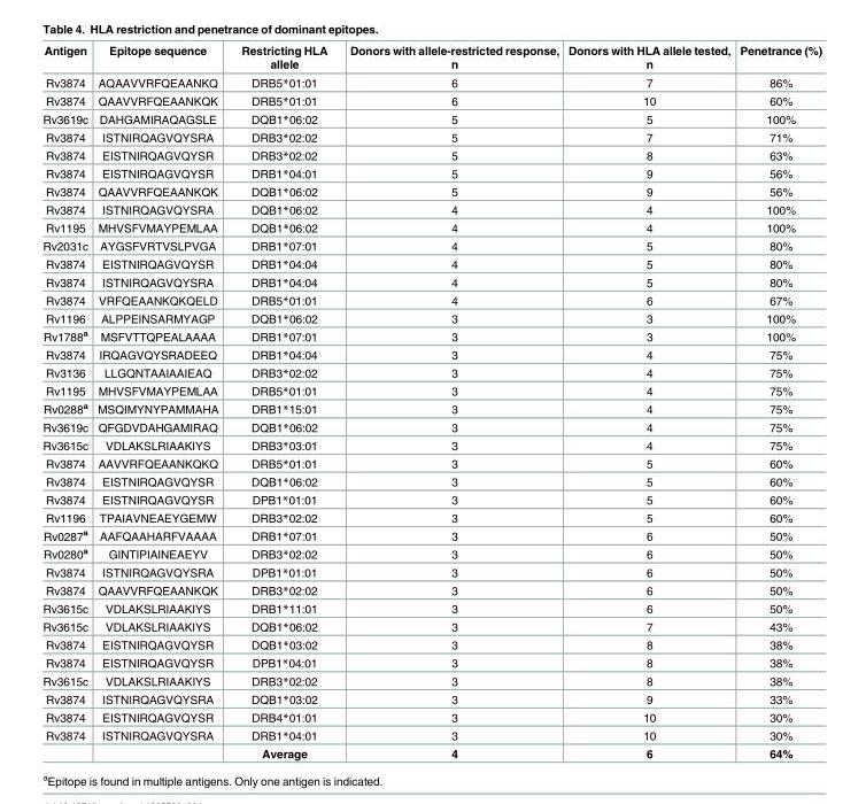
<table><thead><tr><td>Antigen</td><td>Epitope sequence</td><td>Restricting HLA allele</td><td>Donors with allele-restricted response, n</td><td>Donors with HLA allele tested, n</td><td>Penetrance (%)</td></tr></thead><tbody><tr><td>Rv3874</td><td>AQAAVVRFQEAANKQ</td><td>DRB5*01:01</td><td>6</td><td>7</td><td>86%</td></tr><tr><td>Rv3874</td><td>QAAVVRFQEAANKQK</td><td>DRB5*01:01</td><td>6</td><td>10</td><td>60%</td></tr><tr><td>Rv3619c</td><td>DAHGAMIRAQAGSLE</td><td>DQB1*06:02</td><td>5</td><td>5</td><td>100%</td></tr><tr><td>Rv3874</td><td>ISTNIRQAGVQYSRA</td><td>DRB3*02:02</td><td>5</td><td>7</td><td>71%</td></tr><tr><td>Rv3874</td><td>EISTNIRQAGVQYSR</td><td>DRB3*02:02</td><td>5</td><td>8</td><td>63%</td></tr><tr><td>Rv3874</td><td>EISTNIRQAGVQYSR</td><td>DRB1*04:01</td><td>5</td><td>9</td><td>56%</td></tr><tr><td>Rv3874</td><td>QAAVVRFQEAANKQK</td><td>DQB1*06:02</td><td>5</td><td>9</td><td>56%</td></tr><tr><td>Rv3874</td><td>ISTNIRQAGVQYSRA</td><td>DQB1*06:02</td><td>4</td><td>4</td><td>100%</td></tr><tr><td>Rv1195</td><td>MHVSFVMAYPEMLAA</td><td>DQB1*06:02</td><td>4</td><td>4</td><td>100%</td></tr><tr><td>Rv2031c</td><td>AYGSFVRTVSLPVGA</td><td>DRB1*07:01</td><td>4</td><td>5</td><td>80%</td></tr><tr><td>Rv3874</td><td>EISTNIRQAGVQYSR</td><td>DRB1*04:04</td><td>4</td><td>5</td><td>80%</td></tr><tr><td>Rv3874</td><td>ISTNIRQAGVQYSRA</td><td>DRB1*04:04</td><td>4</td><td>5</td><td>80%</td></tr><tr><td>Rv3874</td><td>VRFQEAANKQKQELD</td><td>DRB5*01:01</td><td>4</td><td>6</td><td>67%</td></tr><tr><td>Rv1196</td><td>ALPPEINSARMYAGP</td><td>DQB1*06:02</td><td>3</td><td>3</td><td>100%</td></tr><tr><td>Rv1788<sup>a</sup></td><td>MSFVTTQPEALAAAA</td><td>DRB1*07:01</td><td>3</td><td>3</td><td>100%</td></tr><tr><td>Rv3874</td><td>IRQAGVQYSRADEEQ</td><td>DRB1*04:04</td><td>3</td><td>4</td><td>75%</td></tr><tr><td>Rv3136</td><td>LLGQNTAAIAAIEAQ</td><td>DRB3*02:02</td><td>3</td><td>4</td><td>75%</td></tr><tr><td>Rv1195</td><td>MHVSFVMAYPEMLAA</td><td>DRB5*01:01</td><td>3</td><td>4</td><td>75%</td></tr><tr><td>Rv0288<sup>a</sup></td><td>MSQIMYNYPAMMAHA</td><td>DRB1*15:01</td><td>3</td><td>4</td><td>75%</td></tr><tr><td>Rv3619c</td><td>QFGDVDAHGAMIRAQ</td><td>DQB1*06:02</td><td>3</td><td>4</td><td>75%</td></tr><tr><td>Rv3615c</td><td>VDLAKSLRIAAKIYS</td><td>DRB3*03:01</td><td>3</td><td>4</td><td>75%</td></tr><tr><td>Rv3874</td><td>AAVVRFQEAANKQKQ</td><td>DRB5*01:01</td><td>3</td><td>5</td><td>60%</td></tr><tr><td>Rv3874</td><td>EISTNIRQAGVQYSR</td><td>DQB1*06:02</td><td>3</td><td>5</td><td>60%</td></tr><tr><td>Rv3874</td><td>EISTNIRQAGVQYSR</td><td>DPB1*01:01</td><td>3</td><td>5</td><td>60%</td></tr><tr><td>Rv1196</td><td>TPAIAVNEAEYGEMW</td><td>DRB3*02:02</td><td>3</td><td>5</td><td>60%</td></tr><tr><td>Rv0287<sup>a</sup></td><td>AAFQAAHARFVAAAA</td><td>DRB1*07:01</td><td>3</td><td>6</td><td>50%</td></tr><tr><td>Rv0280<sup>a</sup></td><td>GINTIPIAINEAEYV</td><td>DRB3*02:02</td><td>3</td><td>6</td><td>50%</td></tr><tr><td>Rv3874</td><td>ISTNIRQAGVQYSRA</td><td>DPB1*01:01</td><td>3</td><td>6</td><td>50%</td></tr><tr><td>Rv3874</td><td>QAAVVRFQEAANKQK</td><td>DRB3*02:02</td><td>3</td><td>6</td><td>50%</td></tr><tr><td>Rv3615c</td><td>VDLAKSLRIAAKIYS</td><td>DRB1*11:01</td><td>3</td><td>6</td><td>50%</td></tr><tr><td>Rv3615c</td><td>VDLAKSLRIAAKIYS</td><td>DQB1*06:02</td><td>3</td><td>7</td><td>43%</td></tr><tr><td>Rv3874</td><td>EISTNIRQAGVQYSR</td><td>DQB1*03:02</td><td>3</td><td>8</td><td>38%</td></tr><tr><td>Rv3874</td><td>EISTNIRQAGVQYSR</td><td>DPB1*04:01</td><td>3</td><td>8</td><td>38%</td></tr><tr><td>Rv3615c</td><td>VDLAKSLRIAAKIYS</td><td>DRB3*02:02</td><td>3</td><td>8</td><td>38%</td></tr><tr><td>Rv3874</td><td>ISTNIRQAGVQYSRA</td><td>DQB1*03:02</td><td>3</td><td>9</td><td>33%</td></tr><tr><td>Rv3874</td><td>EISTNIRQAGVQYSR</td><td>DRB4*01:01</td><td>3</td><td>10</td><td>30%</td></tr><tr><td rowspan="2">Rv3874</td><td>ISTNIRQAGVQYSRA</td><td>DRB1*04:01</td><td>3</td><td>10</td><td>30%</td></tr><tr><td></td><td>Average</td><td>4</td><td>6</td><td>64%</td></tr></tbody></table>